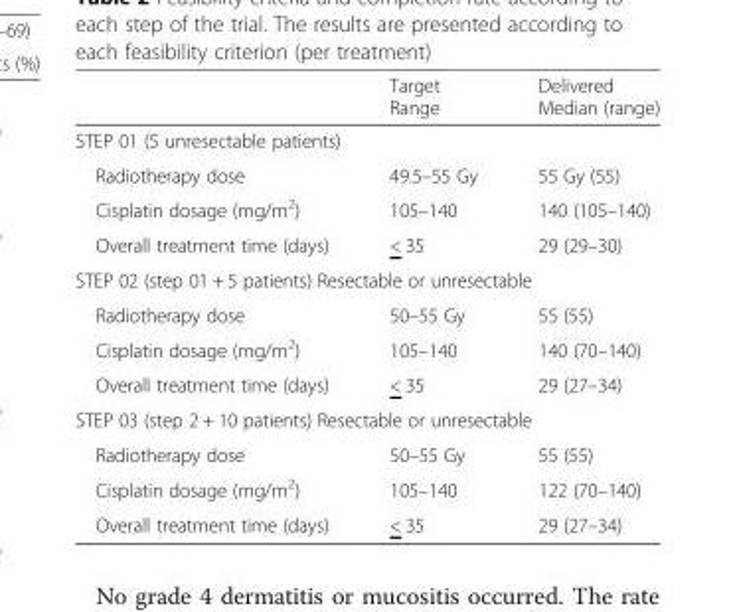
<table><thead><tr><td></td><td>Target Range</td><td>Delivered Median (range)</td></tr></thead><tbody><tr><td colspan="3">STEP 01 (5 unresectable patients)</td></tr><tr><td>Radiotherapy dose</td><td>49.5–55 Gy</td><td>55 Gy (55)</td></tr><tr><td>Cisplatin dosage (mg/m<sup>2</sup>)</td><td>105–140</td><td>140 (105–140)</td></tr><tr><td>Overall treatment time (days)</td><td>&lt; 35</td><td>29 (29–30)</td></tr><tr><td colspan="3">STEP 02 (step 01 + 5 patients) Resectable or unresectable</td></tr><tr><td>Radiotherapy dose</td><td>50–55 Gy</td><td>55 (55)</td></tr><tr><td>Cisplatin dosage (mg/m<sup>2</sup>)</td><td>105–140</td><td>140 (70–140)</td></tr><tr><td>Overall treatment time (days)</td><td>&lt; 35</td><td>29 (27–34)</td></tr><tr><td colspan="3">STEP 03 (step 2 + 10 patients) Resectable or unresectable</td></tr><tr><td>Radiotherapy dose</td><td>50–55 Gy</td><td>55 (55)</td></tr><tr><td>Cisplatin dosage (mg/m<sup>2</sup>)</td><td>105–140</td><td>122 (70–140)</td></tr><tr><td>Overall treatment time (days)</td><td>&lt; 35</td><td>29 (27–34)</td></tr></tbody></table>